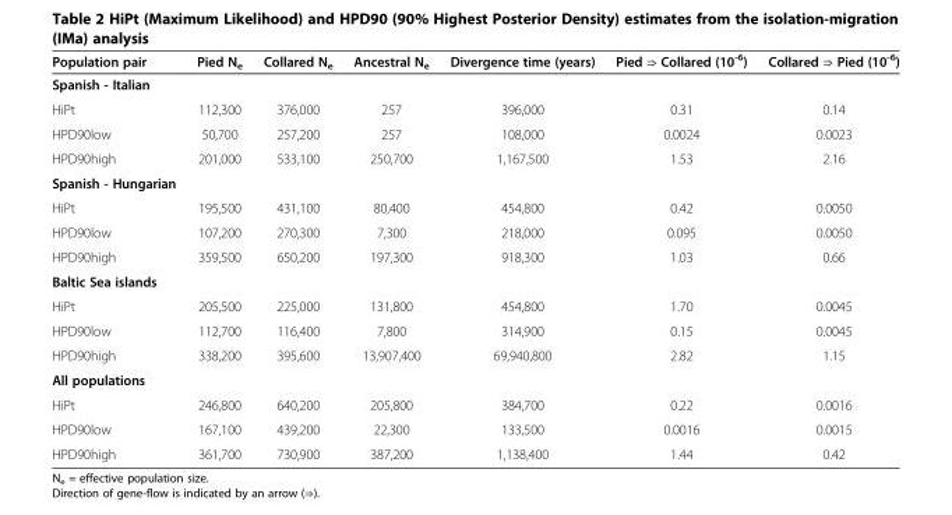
<table><thead><tr><td>Population pair</td><td>Pied N<sub>e</sub></td><td>Collared N<sub>e</sub></td><td>Ancestral N<sub>e</sub></td><td>Divergence time (years)</td><td>Pied ⇒ Collared (10<sup>-6</sup>)</td><td>Collared ⇒ Pied (10<sup>-6</sup>)</td></tr></thead><tbody><tr><td colspan="7">Spanish - Italian</td></tr><tr><td>HiPt</td><td>112,300</td><td>376,000</td><td>257</td><td>396,000</td><td>0.31</td><td>0.14</td></tr><tr><td>HPD90low</td><td>50,700</td><td>257,200</td><td>257</td><td>108,000</td><td>0.0024</td><td>0.0023</td></tr><tr><td>HPD90high</td><td>201,000</td><td>533,100</td><td>250,700</td><td>1,167,500</td><td>1.53</td><td>2.16</td></tr><tr><td colspan="7">Spanish - Hungarian</td></tr><tr><td>HiPt</td><td>195,500</td><td>431,100</td><td>80,400</td><td>454,800</td><td>0.42</td><td>0.0050</td></tr><tr><td>HPD90low</td><td>107,200</td><td>270,300</td><td>7,300</td><td>218,000</td><td>0.095</td><td>0.0050</td></tr><tr><td>HPD90high</td><td>359,500</td><td>650,200</td><td>197,300</td><td>918,300</td><td>1.03</td><td>0.66</td></tr><tr><td colspan="7">Baltic Sea islands</td></tr><tr><td>HiPt</td><td>205,500</td><td>225,000</td><td>131,800</td><td>454,800</td><td>1.70</td><td>0.0045</td></tr><tr><td>HPD90low</td><td>112,700</td><td>116,400</td><td>7,800</td><td>314,900</td><td>0.15</td><td>0.0045</td></tr><tr><td>HPD90high</td><td>338,200</td><td>395,600</td><td>13,907,400</td><td>69,940,800</td><td>2.82</td><td>1.15</td></tr><tr><td colspan="7">All populations</td></tr><tr><td>HiPt</td><td>246,800</td><td>640,200</td><td>205,800</td><td>384,700</td><td>0.22</td><td>0.0016</td></tr><tr><td>HPD90low</td><td>167,100</td><td>439,200</td><td>22,300</td><td>133,500</td><td>0.0016</td><td>0.0015</td></tr><tr><td>HPD90high</td><td>361,700</td><td>730,900</td><td>387,200</td><td>1,138,400</td><td>1.44</td><td>0.42</td></tr></tbody></table>